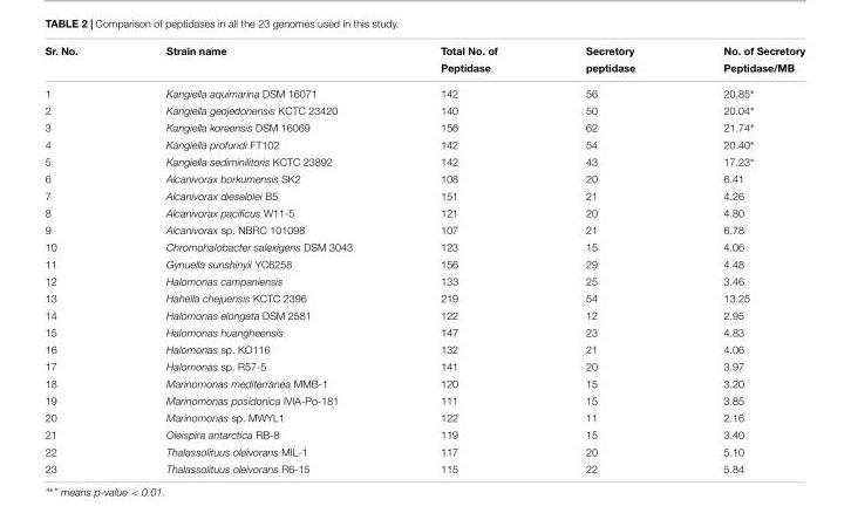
<table><thead><tr><td rowspan="2">Sr. No.</td><td rowspan="2">Strain name</td><td rowspan="2">Total No. of Peptidase</td><td rowspan="2">Secretory peptidase</td><td rowspan="2">No. of Secretory Peptidase/MB</td></tr><tr></tr></thead><tbody><tr><td>1</td><td>Kangiella aquimarina DSM 16071</td><td>142</td><td>56</td><td>20.85∗</td></tr><tr><td>2</td><td>Kangiella geojedonensis KCTC 23420</td><td>140</td><td>50</td><td>20.04∗</td></tr><tr><td>3</td><td>Kangiella koreensis DSM 16069</td><td>156</td><td>62</td><td>21.74∗</td></tr><tr><td>4</td><td>Kangiella profundi FT102</td><td>142</td><td>54</td><td>20.40∗</td></tr><tr><td>5</td><td>Kangiella sediminilitoris KCTC 23892</td><td>142</td><td>43</td><td>17.23∗</td></tr><tr><td>6</td><td>Alcanivorax borkumensis SK2</td><td>108</td><td>20</td><td>6.41</td></tr><tr><td>7</td><td>Alcanivorax dieselolei B5</td><td>151</td><td>21</td><td>4.26</td></tr><tr><td>8</td><td>Alcanivorax pacificus W11-5</td><td>121</td><td>20</td><td>4.80</td></tr><tr><td>9</td><td>Alcanivorax sp. NBRC 101098</td><td>107</td><td>21</td><td>6.78</td></tr><tr><td>10</td><td>Chromohalobacter salexigens DSM 3043</td><td>123</td><td>15</td><td>4.06</td></tr><tr><td>11</td><td>Gynuella sunshinyii YC6258</td><td>156</td><td>29</td><td>4.48</td></tr><tr><td>12</td><td>Halomonas campaniensis</td><td>133</td><td>25</td><td>3.46</td></tr><tr><td>13</td><td>Hahella chejuensis KCTC 2396</td><td>219</td><td>54</td><td>13.25</td></tr><tr><td>14</td><td>Halomonas elongata DSM 2581</td><td>122</td><td>12</td><td>2.95</td></tr><tr><td>15</td><td>Halomonas huangheensis</td><td>147</td><td>23</td><td>4.83</td></tr><tr><td>16</td><td>Halomonas sp. KO116</td><td>132</td><td>21</td><td>4.06</td></tr><tr><td>17</td><td>Halomonas sp. R57-5</td><td>141</td><td>20</td><td>3.97</td></tr><tr><td>18</td><td>Marinomonas mediterranea MMB-1</td><td>120</td><td>15</td><td>3.20</td></tr><tr><td>19</td><td>Marinomonas posidonica IVIA-Po-181</td><td>111</td><td>15</td><td>3.85</td></tr><tr><td>20</td><td>Marinomonas sp. MWYL1</td><td>122</td><td>11</td><td>2.16</td></tr><tr><td>21</td><td>Oleispira antarctica RB-8</td><td>119</td><td>15</td><td>3.40</td></tr><tr><td>22</td><td>Thalassolituus oleivorans MIL-1</td><td>117</td><td>20</td><td>5.10</td></tr><tr><td>23</td><td>Thalassolituus oleivorans R6-15</td><td>115</td><td>22</td><td>5.84</td></tr></tbody></table>